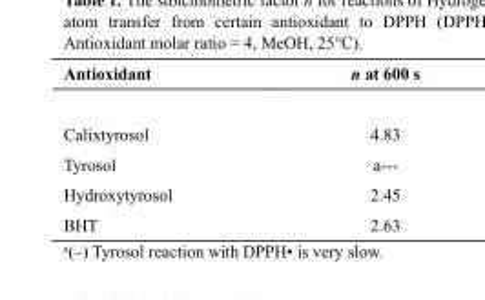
<table><thead><tr><td>Antioxidant</td><td>n at 600 s</td></tr></thead><tbody><tr><td>Calixtyrosol</td><td>4.83</td></tr><tr><td>Tyrosol</td><td>a---</td></tr><tr><td>Hydroxytyrosol</td><td>2.45</td></tr><tr><td>BHT</td><td>2.63</td></tr></tbody></table>